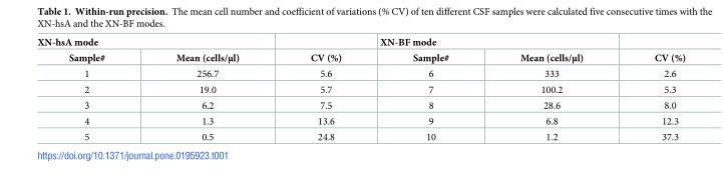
<table><thead><tr><td colspan="2">XN-hsA mode</td><td rowspan="2">CV (%)</td><td colspan="2">XN-BF mode</td><td rowspan="2">CV (%)</td></tr><tr><td>Sample#</td><td>Mean (cells/μl)</td><td>Sample#</td><td>Mean (cells/μl)</td></tr></thead><tbody><tr><td>1</td><td>256.7</td><td>5.6</td><td>6</td><td>333</td><td>2.6</td></tr><tr><td>2</td><td>19.0</td><td>5.7</td><td>7</td><td>100.2</td><td>5.3</td></tr><tr><td>3</td><td>6.2</td><td>7.5</td><td>8</td><td>28.6</td><td>8.0</td></tr><tr><td>4</td><td>1.3</td><td>13.6</td><td>9</td><td>6.8</td><td>12.3</td></tr><tr><td>5</td><td>0.5</td><td>24.8</td><td>10</td><td>1.2</td><td>37.3</td></tr></tbody></table>